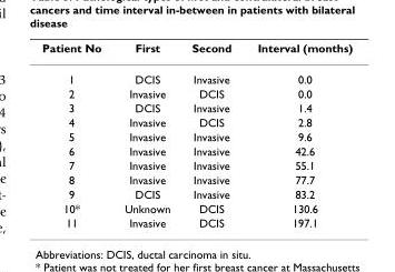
<table><thead><tr><td>Patient No</td><td>First</td><td>Second</td><td>Interval (months)</td></tr></thead><tbody><tr><td>1</td><td>DCIS</td><td>Invasive</td><td>0.0</td></tr><tr><td>2</td><td>Invasive</td><td>DCIS</td><td>0.0</td></tr><tr><td>3</td><td>DCIS</td><td>Invasive</td><td>1.4</td></tr><tr><td>4</td><td>Invasive</td><td>DCIS</td><td>2.8</td></tr><tr><td>5</td><td>Invasive</td><td>Invasive</td><td>9.6</td></tr><tr><td>6</td><td>Invasive</td><td>Invasive</td><td>42.6</td></tr><tr><td>7</td><td>Invasive</td><td>Invasive</td><td>55.1</td></tr><tr><td>8</td><td>Invasive</td><td>Invasive</td><td>77.7</td></tr><tr><td>9</td><td>DCIS</td><td>Invasive</td><td>83.2</td></tr><tr><td>10*</td><td>Unknown</td><td>DCIS</td><td>130.6</td></tr><tr><td>11</td><td>Invasive</td><td>DCIS</td><td>197.1</td></tr></tbody></table>